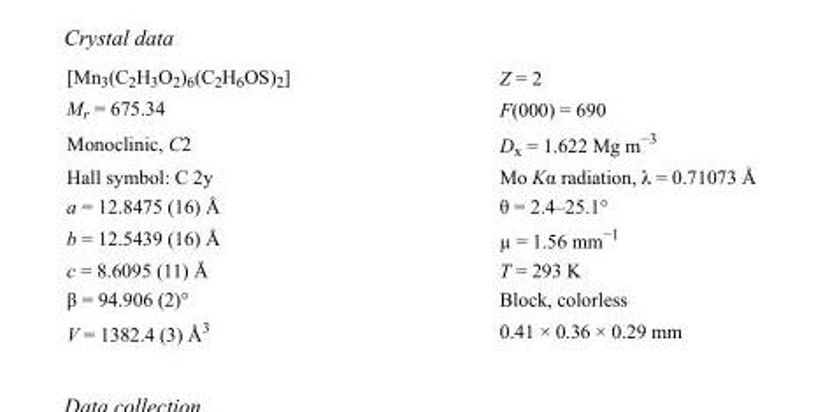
<table><tbody><tr><td>[Mn<sub>3</sub>(C<sub>2</sub>H<sub>3</sub>O<sub>2</sub>)<sub>6</sub>(C<sub>2</sub>H<sub>6</sub>OS)<sub>2</sub>]</td><td>Z = 2</td></tr><tr><td>M<sub>r</sub> = 675.34</td><td>F(000) = 690</td></tr><tr><td>Monoclinic, C2</td><td>D<sub>x</sub> = 1.622 Mg m<sup>−3</sup></td></tr><tr><td>Hall symbol: C 2y</td><td>Mo Kα radiation, λ = 0.71073 Å</td></tr><tr><td>a = 12.8475 (16) Å</td><td>θ = 2.4–25.1°</td></tr><tr><td>b = 12.5439 (16) Å</td><td>µ = 1.56 mm<sup>−1</sup></td></tr><tr><td>c = 8.6095 (11) Å</td><td>T = 293 K</td></tr><tr><td>β = 94.906 (2)°</td><td>Block, colorless</td></tr><tr><td>V = 1382.4 (3) Å<sup>3</sup></td><td>0.41 × 0.36 × 0.29 mm</td></tr></tbody></table>